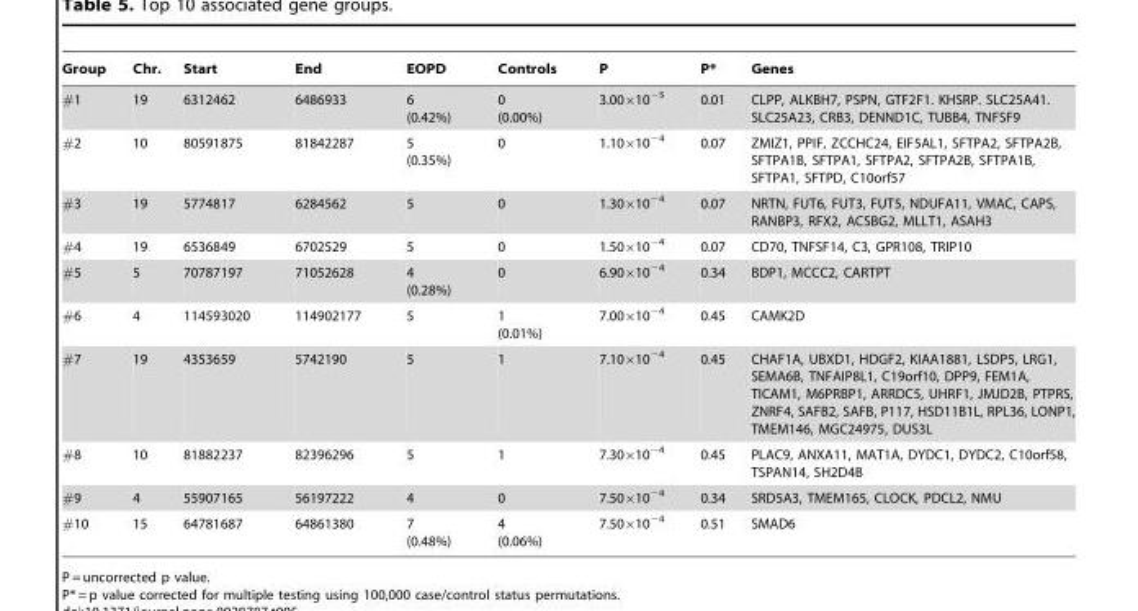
<table><thead><tr><td>Group</td><td>Chr.</td><td>Start</td><td>End</td><td>EOPD</td><td>Controls</td><td>P</td><td>P*</td><td>Genes</td></tr></thead><tbody><tr><td>#1</td><td>19</td><td>6312462</td><td>6486933</td><td>6 (0.42%)</td><td>0 (0.00%)</td><td>3.00×10<sup>−5</sup></td><td>0.01</td><td>CLPP, ALKBH7, PSPN, GTF2F1. KHSRP. SLC25A41. SLC25A23, CRB3, DENND1C, TUBB4, TNFSF9</td></tr><tr><td>#2</td><td>10</td><td>80591875</td><td>81842287</td><td>5 (0.35%)</td><td>0</td><td>1.10×10<sup>−4</sup></td><td>0.07</td><td>ZMIZ1, PPIF, ZCCHC24, EIF5AL1, SFTPA2, SFTPA2B, SFTPA1B, SFTPA1, SFTPA2, SFTPA2B, SFTPA1B, SFTPA1, SFTPD, C10orf57</td></tr><tr><td>#3</td><td>19</td><td>5774817</td><td>6284562</td><td>5</td><td>0</td><td>1.30×10<sup>−4</sup></td><td>0.07</td><td>NRTN, FUT6, FUT3, FUT5, NDUFA11, VMAC, CAPS, RANBP3, RFX2, ACSBG2, MLLT1, ASAH3</td></tr><tr><td>#4</td><td>19</td><td>6536849</td><td>6702529</td><td>5</td><td>0</td><td>1.50×10<sup>−4</sup></td><td>0.07</td><td>CD70, TNFSF14, C3, GPR108, TRIP10</td></tr><tr><td>#5</td><td>5</td><td>70787197</td><td>71052628</td><td>4 (0.28%)</td><td>0</td><td>6.90×10<sup>−4</sup></td><td>0.34</td><td>BDP1, MCCC2, CARTPT</td></tr><tr><td>#6</td><td>4</td><td>114593020</td><td>114902177</td><td>5</td><td>1 (0.01%)</td><td>7.00×10<sup>−4</sup></td><td>0.45</td><td>CAMK2D</td></tr><tr><td>#7</td><td>19</td><td>4353659</td><td>5742190</td><td>5</td><td>1</td><td>7.10×10<sup>−4</sup></td><td>0.45</td><td>CHAF1A, UBXD1, HDGF2, KIAA1881, LSDP5, LRG1, SEMA6B, TNFAIP8L1, C19orf10, DPP9, FEM1A, TICAM1, M6PRBP1, ARRDC5, UHRF1, JMJD2B, PTPRS, ZNRF4, SAFB2, SAFB, P117, HSD11B1L, RPL36, LONP1, TMEM146, MGC24975, DUS3L</td></tr><tr><td>#8</td><td>10</td><td>81882237</td><td>82396296</td><td>5</td><td>1</td><td>7.30×10<sup>−4</sup></td><td>0.45</td><td>PLAC9, ANXA11, MAT1A, DYDC1, DYDC2, C10orf58, TSPAN14, SH2D4B</td></tr><tr><td>#9</td><td>4</td><td>55907165</td><td>56197222</td><td>4</td><td>0</td><td>7.50×10<sup>−4</sup></td><td>0.34</td><td>SRD5A3, TMEM165, CLOCK, PDCL2, NMU</td></tr><tr><td>#10</td><td>15</td><td>64781687</td><td>64861380</td><td>7 (0.48%)</td><td>4 (0.06%)</td><td>7.50×10<sup>−4</sup></td><td>0.51</td><td>SMAD6</td></tr></tbody></table>